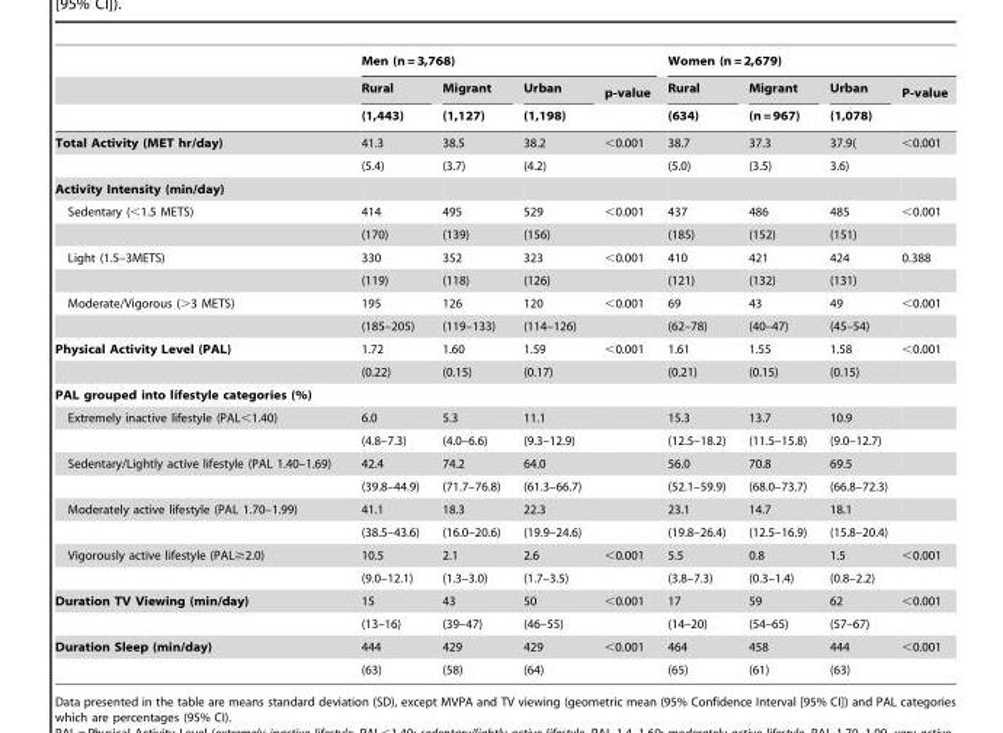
<table><thead><tr><td rowspan="3"></td><td colspan="4">Men (n = 3,768)</td><td colspan="4">Women (n = 2,679)</td></tr><tr><td rowspan="2">Rural (1,443)</td><td rowspan="2">Migrant (1,127)</td><td rowspan="2">Urban (1,198)</td><td rowspan="2">p-value</td><td rowspan="2">Rural (634)</td><td rowspan="2">Migrant (n = 967)</td><td rowspan="2">Urban (1,078)</td><td rowspan="2">P-value</td></tr><tr></tr></thead><tbody><tr><td rowspan="2">Total Activity (MET hr/day)</td><td>41.3</td><td>38.5</td><td>38.2</td><td>&lt;0.001</td><td>38.7</td><td>37.3</td><td>37.9(</td><td>&lt;0.001</td></tr><tr><td>(5.4)</td><td>(3.7)</td><td>(4.2)</td><td></td><td>(5.0)</td><td>(3.5)</td><td>3.6)</td><td></td></tr><tr><td colspan="9">Activity Intensity (min/day)</td></tr><tr><td rowspan="2">Sedentary (&lt;1.5 METS)</td><td>414</td><td>495</td><td>529</td><td>&lt;0.001</td><td>437</td><td>486</td><td>485</td><td>&lt;0.001</td></tr><tr><td>(170)</td><td>(139)</td><td>(156)</td><td></td><td>(185)</td><td>(152)</td><td>(151)</td><td></td></tr><tr><td rowspan="2">Light (1.5–3METS)</td><td>330</td><td>352</td><td>323</td><td>&lt;0.001</td><td>410</td><td>421</td><td>424</td><td>0.388</td></tr><tr><td>(119)</td><td>(118)</td><td>(126)</td><td></td><td>(121)</td><td>(132)</td><td>(131)</td><td></td></tr><tr><td rowspan="2">Moderate/Vigorous (&gt;3 METS)</td><td>195</td><td>126</td><td>120</td><td>&lt;0.001</td><td>69</td><td>43</td><td>49</td><td>&lt;0.001</td></tr><tr><td>(185–205)</td><td>(119–133)</td><td>(114–126)</td><td></td><td>(62–78)</td><td>(40–47)</td><td>(45–54)</td><td></td></tr><tr><td rowspan="2">Physical Activity Level (PAL)</td><td>1.72</td><td>1.60</td><td>1.59</td><td>&lt;0.001</td><td>1.61</td><td>1.55</td><td>1.58</td><td>&lt;0.001</td></tr><tr><td>(0.22)</td><td>(0.15)</td><td>(0.17)</td><td></td><td>(0.21)</td><td>(0.15)</td><td>(0.15)</td><td></td></tr><tr><td colspan="9">PAL grouped into lifestyle categories (%)</td></tr><tr><td rowspan="2">Extremely inactive lifestyle (PAL&lt;1.40)</td><td>6.0</td><td>5.3</td><td>11.1</td><td></td><td>15.3</td><td>13.7</td><td>10.9</td><td></td></tr><tr><td>(4.8–7.3)</td><td>(4.0–6.6)</td><td>(9.3–12.9)</td><td></td><td>(12.5–18.2)</td><td>(11.5–15.8)</td><td>(9.0–12.7)</td><td></td></tr><tr><td rowspan="2">Sedentary/Lightly active lifestyle (PAL 1.40–1.69)</td><td>42.4</td><td>74.2</td><td>64.0</td><td></td><td>56.0</td><td>70.8</td><td>69.5</td><td></td></tr><tr><td>(39.8–44.9)</td><td>(71.7–76.8)</td><td>(61.3–66.7)</td><td></td><td>(52.1–59.9)</td><td>(68.0–73.7)</td><td>(66.8–72.3)</td><td></td></tr><tr><td rowspan="2">Moderately active lifestyle (PAL 1.70–1.99)</td><td>41.1</td><td>18.3</td><td>22.3</td><td></td><td>23.1</td><td>14.7</td><td>18.1</td><td></td></tr><tr><td>(38.5–43.6)</td><td>(16.0–20.6)</td><td>(19.9–24.6)</td><td></td><td>(19.8–26.4)</td><td>(12.5–16.9)</td><td>(15.8–20.4)</td><td></td></tr><tr><td rowspan="2">Vigorously active lifestyle (PAL≥2.0)</td><td>10.5</td><td>2.1</td><td>2.6</td><td>&lt;0.001</td><td>5.5</td><td>0.8</td><td>1.5</td><td>&lt;0.001</td></tr><tr><td>(9.0–12.1)</td><td>(1.3–3.0)</td><td>(1.7–3.5)</td><td></td><td>(3.8–7.3)</td><td>(0.3–1.4)</td><td>(0.8–2.2)</td><td></td></tr><tr><td rowspan="2">Duration TV Viewing (min/day)</td><td>15</td><td>43</td><td>50</td><td>&lt;0.001</td><td>17</td><td>59</td><td>62</td><td>&lt;0.001</td></tr><tr><td>(13–16)</td><td>(39–47)</td><td>(46–55)</td><td></td><td>(14–20)</td><td>(54–65)</td><td>(57–67)</td><td></td></tr><tr><td rowspan="2">Duration Sleep (min/day)</td><td>444</td><td>429</td><td>429</td><td>&lt;0.001</td><td>464</td><td>458</td><td>444</td><td>&lt;0.001</td></tr><tr><td>(63)</td><td>(58)</td><td>(64)</td><td></td><td>(65)</td><td>(61)</td><td>(63)</td><td></td></tr></tbody></table>